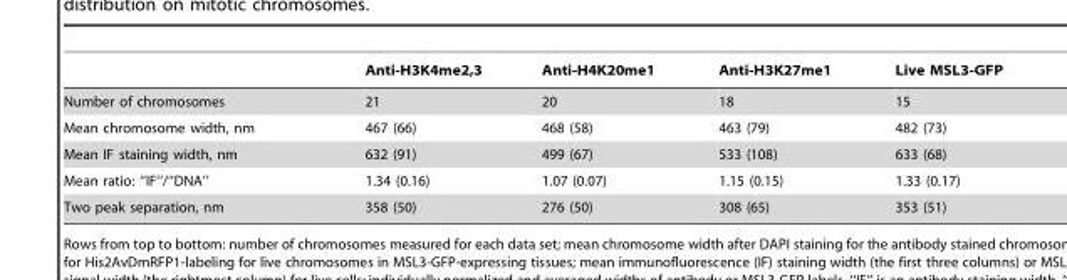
<table><thead><tr><td></td><td>Anti-H3K4me2,3</td><td>Anti-H4K20me1</td><td>Anti-H3K27me1</td><td>Live MSL3-GFP</td></tr></thead><tbody><tr><td>Number of chromosomes</td><td>21</td><td>20</td><td>18</td><td>15</td></tr><tr><td>Mean chromosome width, nm</td><td>467 (66)</td><td>468 (58)</td><td>463 (79)</td><td>482 (73)</td></tr><tr><td>Mean IF staining width, nm</td><td>632 (91)</td><td>499 (67)</td><td>533 (108)</td><td>633 (68)</td></tr><tr><td>Mean ratio: ‘‘IF’’/‘‘DNA’’</td><td>1.34 (0.16)</td><td>1.07 (0.07)</td><td>1.15 (0.15)</td><td>1.33 (0.17)</td></tr><tr><td>Two peak separation, nm</td><td>358 (50)</td><td>276 (50)</td><td>308 (65)</td><td>353 (51)</td></tr></tbody></table>